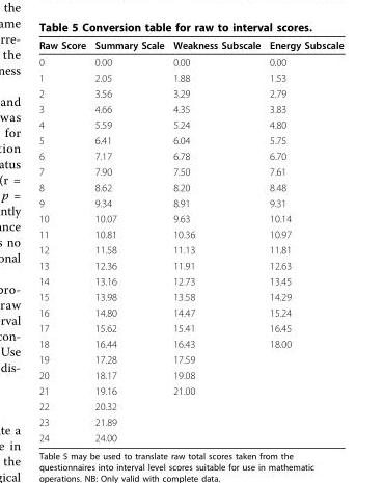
<table><thead><tr><td>Raw Score</td><td>Summary Scale</td><td>Weakness Subscale</td><td>Energy Subscale</td></tr></thead><tbody><tr><td>0</td><td>0.00</td><td>0.00</td><td>0.00</td></tr><tr><td>1</td><td>2.05</td><td>1.88</td><td>1.53</td></tr><tr><td>2</td><td>3.56</td><td>3.29</td><td>2.79</td></tr><tr><td>3</td><td>4.66</td><td>4.35</td><td>3.83</td></tr><tr><td>4</td><td>5.59</td><td>5.24</td><td>4.80</td></tr><tr><td>5</td><td>6.41</td><td>6.04</td><td>5.75</td></tr><tr><td>6</td><td>7.17</td><td>6.78</td><td>6.70</td></tr><tr><td>7</td><td>7.90</td><td>7.50</td><td>7.61</td></tr><tr><td>8</td><td>8.62</td><td>8.20</td><td>8.48</td></tr><tr><td>9</td><td>9.34</td><td>8.91</td><td>9.31</td></tr><tr><td>10</td><td>10.07</td><td>9.63</td><td>10.14</td></tr><tr><td>11</td><td>10.81</td><td>10.36</td><td>10.97</td></tr><tr><td>12</td><td>11.58</td><td>11.13</td><td>11.81</td></tr><tr><td>13</td><td>12.36</td><td>11.91</td><td>12.63</td></tr><tr><td>14</td><td>13.16</td><td>12.73</td><td>13.45</td></tr><tr><td>15</td><td>13.98</td><td>13.58</td><td>14.29</td></tr><tr><td>16</td><td>14.80</td><td>14.47</td><td>15.24</td></tr><tr><td>17</td><td>15.62</td><td>15.41</td><td>16.45</td></tr><tr><td>18</td><td>16.44</td><td>16.43</td><td>18.00</td></tr><tr><td>19</td><td>17.28</td><td>17.59</td><td></td></tr><tr><td>20</td><td>18.17</td><td>19.08</td><td></td></tr><tr><td>21</td><td>19.16</td><td>21.00</td><td></td></tr><tr><td>22</td><td>20.32</td><td></td><td></td></tr><tr><td>23</td><td>21.89</td><td></td><td></td></tr><tr><td>24</td><td>24.00</td><td></td><td></td></tr></tbody></table>